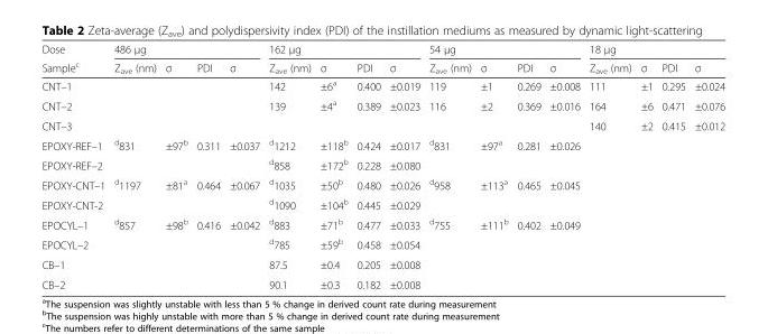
<table><thead><tr><td rowspan="2">Dose Sample<sup>c</sup></td><td colspan="4">486 μg</td><td colspan="4">162 μg</td><td colspan="4">54 μg</td><td colspan="4">18 μg</td></tr><tr><td>Z<sub>ave</sub> (nm)</td><td>σ</td><td>PDI</td><td>σ</td><td>Z<sub>ave</sub> (nm)</td><td>σ</td><td>PDI</td><td>σ</td><td>Z<sub>ave</sub> (nm)</td><td>σ</td><td>PDI</td><td>σ</td><td>Z<sub>ave</sub> (nm)</td><td>σ</td><td>PDI</td><td>σ</td></tr></thead><tbody><tr><td>CNT–1</td><td></td><td></td><td></td><td></td><td>142</td><td>±6<sup>a</sup></td><td>0.400</td><td>±0.019</td><td>119</td><td>±1</td><td>0.269</td><td>±0.008</td><td>111</td><td>±1</td><td>0.295</td><td>±0.024</td></tr><tr><td>CNT–2</td><td></td><td></td><td></td><td></td><td>139</td><td>±4<sup>a</sup></td><td>0.389</td><td>±0.023</td><td>116</td><td>±2</td><td>0.369</td><td>±0.016</td><td>164</td><td>±6</td><td>0.471</td><td>±0.076</td></tr><tr><td>CNT–3</td><td></td><td></td><td></td><td></td><td></td><td></td><td></td><td></td><td></td><td></td><td></td><td></td><td>140</td><td>±2</td><td>0.415</td><td>±0.012</td></tr><tr><td>EPOXY-REF–1</td><td><sup>d</sup>831</td><td>±97<sup>b</sup></td><td>0.311</td><td>±0.037</td><td><sup>d</sup>1212</td><td>±118<sup>b</sup></td><td>0.424</td><td>±0.017</td><td><sup>d</sup>831</td><td>±97<sup>a</sup></td><td>0.281</td><td>±0.026</td><td></td><td></td><td></td><td></td></tr><tr><td>EPOXY-REF–2</td><td></td><td></td><td></td><td></td><td><sup>d</sup>858</td><td>±172<sup>b</sup></td><td>0.228</td><td>±0.080</td><td></td><td></td><td></td><td></td><td></td><td></td><td></td><td></td></tr><tr><td>EPOXY-CNT–1</td><td><sup>d</sup>1197</td><td>±81<sup>a</sup></td><td>0.464</td><td>±0.067</td><td><sup>d</sup>1035</td><td>±50<sup>b</sup></td><td>0.480</td><td>±0.026</td><td><sup>d</sup>958</td><td>±113<sup>a</sup></td><td>0.465</td><td>±0.045</td><td></td><td></td><td></td><td></td></tr><tr><td>EPOXY-CNT-2</td><td></td><td></td><td></td><td></td><td><sup>d</sup>1090</td><td>±104<sup>b</sup></td><td>0.445</td><td>±0.029</td><td></td><td></td><td></td><td></td><td></td><td></td><td></td><td></td></tr><tr><td>EPOCYL–1</td><td><sup>d</sup>857</td><td>±98<sup>b</sup></td><td>0.416</td><td>±0.042</td><td><sup>d</sup>883</td><td>±71<sup>b</sup></td><td>0.477</td><td>±0.033</td><td><sup>d</sup>755</td><td>±111<sup>b</sup></td><td>0.402</td><td>±0.049</td><td></td><td></td><td></td><td></td></tr><tr><td>EPOCYL–2</td><td></td><td></td><td></td><td></td><td><sup>d</sup>785</td><td>±59<sup>b</sup></td><td>0.458</td><td>±0.054</td><td></td><td></td><td></td><td></td><td></td><td></td><td></td><td></td></tr><tr><td>CB–1</td><td></td><td></td><td></td><td></td><td>87.5</td><td>±0.4</td><td>0.205</td><td>±0.008</td><td></td><td></td><td></td><td></td><td></td><td></td><td></td><td></td></tr><tr><td>CB–2</td><td></td><td></td><td></td><td></td><td>90.1</td><td>±0.3</td><td>0.182</td><td>±0.008</td><td></td><td></td><td></td><td></td><td></td><td></td><td></td><td></td></tr></tbody></table>